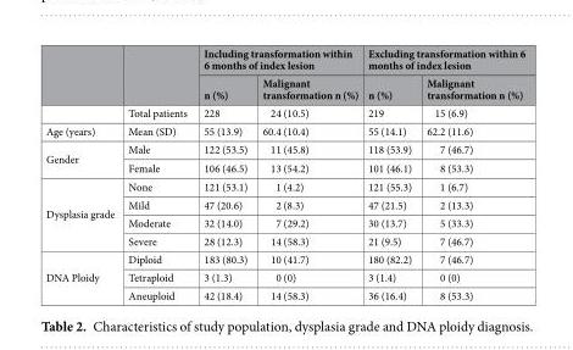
<table><thead><tr><td rowspan="2"></td><td rowspan="2"></td><td colspan="2">Including transformation within 6 months of index lesion</td><td colspan="2">Excluding transformation within 6 months of index lesion</td></tr><tr><td>n (%)</td><td>Malignant transformation n (%)</td><td>n (%)</td><td>Malignant transformation n (%)</td></tr></thead><tbody><tr><td></td><td>Total patients</td><td>228</td><td>24 (10.5)</td><td>219</td><td>15 (6.9)</td></tr><tr><td>Age (years)</td><td>Mean (SD)</td><td>55 (13.9)</td><td>60.4 (10.4)</td><td>55 (14.1)</td><td>62.2 (11.6)</td></tr><tr><td rowspan="2">Gender</td><td>Male</td><td>122 (53.5)</td><td>11 (45.8)</td><td>118 (53.9)</td><td>7 (46.7)</td></tr><tr><td>Female</td><td>106 (46.5)</td><td>13 (54.2)</td><td>101 (46.1)</td><td>8 (53.3)</td></tr><tr><td rowspan="4">Dysplasia grade</td><td>None</td><td>121 (53.1)</td><td>1 (4.2)</td><td>121 (55.3)</td><td>1 (6.7)</td></tr><tr><td>Mild</td><td>47 (20.6)</td><td>2 (8.3)</td><td>47 (21.5)</td><td>2 (13.3)</td></tr><tr><td>Moderate</td><td>32 (14.0)</td><td>7 (29.2)</td><td>30 (13.7)</td><td>5 (33.3)</td></tr><tr><td>Severe</td><td>28 (12.3)</td><td>14 (58.3)</td><td>21 (9.5)</td><td>7 (46.7)</td></tr><tr><td rowspan="3">DNA Ploidy</td><td>Diploid</td><td>183 (80.3)</td><td>10 (41.7)</td><td>180 (82.2)</td><td>7 (46.7)</td></tr><tr><td>Tetraploid</td><td>3 (1.3)</td><td>0 (0)</td><td>3 (1.4)</td><td>0 (0)</td></tr><tr><td>Aneuploid</td><td>42 (18.4)</td><td>14 (58.3)</td><td>36 (16.4)</td><td>8 (53.3)</td></tr></tbody></table>